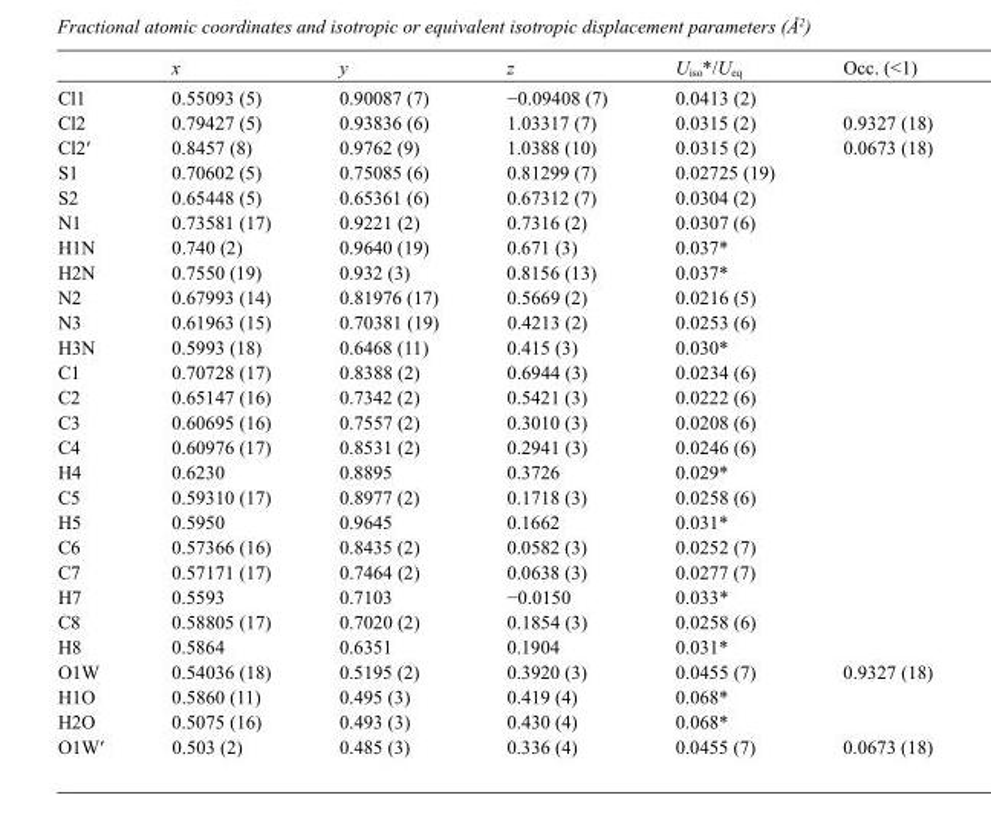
<table><thead><tr><td></td><td>x</td><td>y</td><td>z</td><td>U<sub>iso</sub>*/U<sub>eq</sub></td><td>Occ. (&lt;1)</td></tr></thead><tbody><tr><td>Cl1</td><td>0.55093 (5)</td><td>0.90087 (7)</td><td>−0.09408 (7)</td><td>0.0413 (2)</td><td></td></tr><tr><td>Cl2</td><td>0.79427 (5)</td><td>0.93836 (6)</td><td>1.03317 (7)</td><td>0.0315 (2)</td><td>0.9327 (18)</td></tr><tr><td>Cl2′</td><td>0.8457 (8)</td><td>0.9762 (9)</td><td>1.0388 (10)</td><td>0.0315 (2)</td><td>0.0673 (18)</td></tr><tr><td>S1</td><td>0.70602 (5)</td><td>0.75085 (6)</td><td>0.81299 (7)</td><td>0.02725 (19)</td><td></td></tr><tr><td>S2</td><td>0.65448 (5)</td><td>0.65361 (6)</td><td>0.67312 (7)</td><td>0.0304 (2)</td><td></td></tr><tr><td>N1</td><td>0.73581 (17)</td><td>0.9221 (2)</td><td>0.7316 (2)</td><td>0.0307 (6)</td><td></td></tr><tr><td>H1N</td><td>0.740 (2)</td><td>0.9640 (19)</td><td>0.671 (3)</td><td>0.037*</td><td></td></tr><tr><td>H2N</td><td>0.7550 (19)</td><td>0.932 (3)</td><td>0.8156 (13)</td><td>0.037*</td><td></td></tr><tr><td>N2</td><td>0.67993 (14)</td><td>0.81976 (17)</td><td>0.5669 (2)</td><td>0.0216 (5)</td><td></td></tr><tr><td>N3</td><td>0.61963 (15)</td><td>0.70381 (19)</td><td>0.4213 (2)</td><td>0.0253 (6)</td><td></td></tr><tr><td>H3N</td><td>0.5993 (18)</td><td>0.6468 (11)</td><td>0.415 (3)</td><td>0.030*</td><td></td></tr><tr><td>C1</td><td>0.70728 (17)</td><td>0.8388 (2)</td><td>0.6944 (3)</td><td>0.0234 (6)</td><td></td></tr><tr><td>C2</td><td>0.65147 (16)</td><td>0.7342 (2)</td><td>0.5421 (3)</td><td>0.0222 (6)</td><td></td></tr><tr><td>C3</td><td>0.60695 (16)</td><td>0.7557 (2)</td><td>0.3010 (3)</td><td>0.0208 (6)</td><td></td></tr><tr><td>C4</td><td>0.60976 (17)</td><td>0.8531 (2)</td><td>0.2941 (3)</td><td>0.0246 (6)</td><td></td></tr><tr><td>H4</td><td>0.6230</td><td>0.8895</td><td>0.3726</td><td>0.029*</td><td></td></tr><tr><td>C5</td><td>0.59310 (17)</td><td>0.8977 (2)</td><td>0.1718 (3)</td><td>0.0258 (6)</td><td></td></tr><tr><td>H5</td><td>0.5950</td><td>0.9645</td><td>0.1662</td><td>0.031*</td><td></td></tr><tr><td>C6</td><td>0.57366 (16)</td><td>0.8435 (2)</td><td>0.0582 (3)</td><td>0.0252 (7)</td><td></td></tr><tr><td>C7</td><td>0.57171 (17)</td><td>0.7464 (2)</td><td>0.0638 (3)</td><td>0.0277 (7)</td><td></td></tr><tr><td>H7</td><td>0.5593</td><td>0.7103</td><td>−0.0150</td><td>0.033*</td><td></td></tr><tr><td>C8</td><td>0.58805 (17)</td><td>0.7020 (2)</td><td>0.1854 (3)</td><td>0.0258 (6)</td><td></td></tr><tr><td>H8</td><td>0.5864</td><td>0.6351</td><td>0.1904</td><td>0.031*</td><td></td></tr><tr><td>O1W</td><td>0.54036 (18)</td><td>0.5195 (2)</td><td>0.3920 (3)</td><td>0.0455 (7)</td><td>0.9327 (18)</td></tr><tr><td>H1O</td><td>0.5860 (11)</td><td>0.495 (3)</td><td>0.419 (4)</td><td>0.068*</td><td></td></tr><tr><td>H2O</td><td>0.5075 (16)</td><td>0.493 (3)</td><td>0.430 (4)</td><td>0.068*</td><td></td></tr><tr><td>O1W′</td><td>0.503 (2)</td><td>0.485 (3)</td><td>0.336 (4)</td><td>0.0455 (7)</td><td>0.0673 (18)</td></tr></tbody></table>